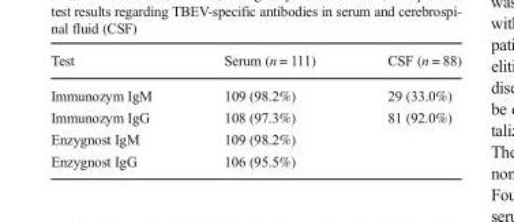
<table><thead><tr><td>Test</td><td>Serum (n = 111)</td><td>CSF (n = 88)</td></tr></thead><tbody><tr><td>Immunozym IgM</td><td>109 (98.2%)</td><td>29 (33.0%)</td></tr><tr><td>Immunozym IgG</td><td>108 (97.3%)</td><td>81 (92.0%)</td></tr><tr><td>Enzygnost IgM</td><td>109 (98.2%)</td><td></td></tr><tr><td>Enzygnost IgG</td><td>106 (95.5%)</td><td></td></tr></tbody></table>